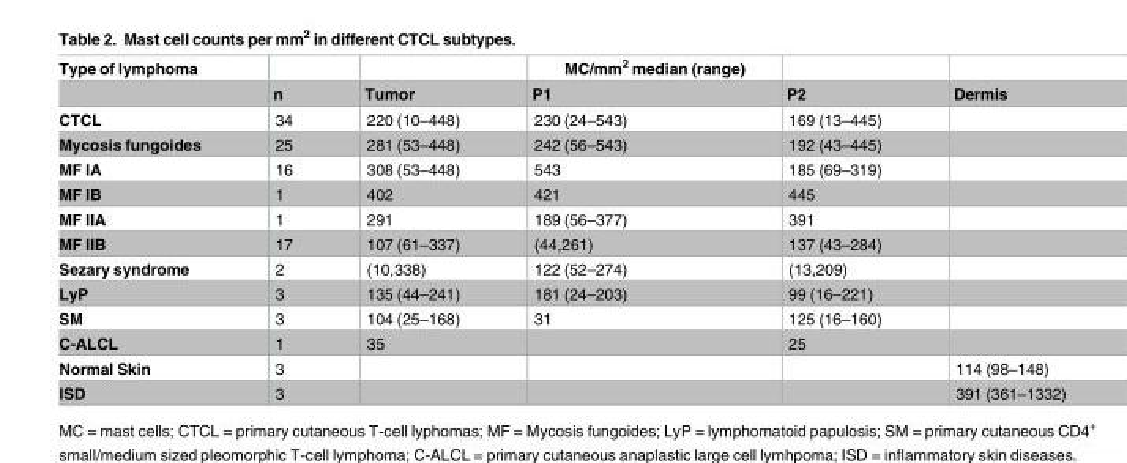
<table><thead><tr><td rowspan="2">Type of lymphoma</td><td rowspan="2">n</td><td rowspan="2">Tumor</td><td rowspan="2">MC/mm<sup>2</sup> median (range) P1</td><td rowspan="2">P2</td><td rowspan="2">Dermis</td></tr><tr></tr></thead><tbody><tr><td>CTCL</td><td>34</td><td>220 (10–448)</td><td>230 (24–543)</td><td>169 (13–445)</td><td></td></tr><tr><td>Mycosis fungoides</td><td>25</td><td>281 (53–448)</td><td>242 (56–543)</td><td>192 (43–445)</td><td></td></tr><tr><td>MF IA</td><td>16</td><td>308 (53–448)</td><td>543</td><td>185 (69–319)</td><td></td></tr><tr><td>MF IB</td><td>1</td><td>402</td><td>421</td><td>445</td><td></td></tr><tr><td>MF IIA</td><td>1</td><td>291</td><td>189 (56–377)</td><td>391</td><td></td></tr><tr><td>MF IIB</td><td>17</td><td>107 (61–337)</td><td>(44,261)</td><td>137 (43–284)</td><td></td></tr><tr><td>Sezary syndrome</td><td>2</td><td>(10,338)</td><td>122 (52–274)</td><td>(13,209)</td><td></td></tr><tr><td>LyP</td><td>3</td><td>135 (44–241)</td><td>181 (24–203)</td><td>99 (16–221)</td><td></td></tr><tr><td>SM</td><td>3</td><td>104 (25–168)</td><td>31</td><td>125 (16–160)</td><td></td></tr><tr><td>C-ALCL</td><td>1</td><td>35</td><td></td><td>25</td><td></td></tr><tr><td>Normal Skin</td><td>3</td><td></td><td></td><td></td><td>114 (98–148)</td></tr><tr><td>ISD</td><td>3</td><td></td><td></td><td></td><td>391 (361–1332)</td></tr></tbody></table>